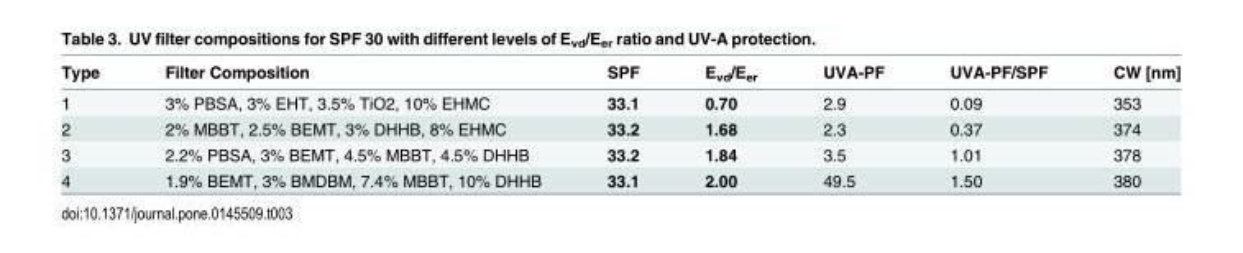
<table><thead><tr><td>Type</td><td>Filter Composition</td><td>SPF</td><td>E<sub>vd</sub>/E<sub>er</sub></td><td>UVA-PF</td><td>UVA-PF/SPF</td><td>CW [nm]</td></tr></thead><tbody><tr><td>1</td><td>3% PBSA, 3% EHT, 3.5% TiO2, 10% EHMC</td><td>33.1</td><td>0.70</td><td>2.9</td><td>0.09</td><td>353</td></tr><tr><td>2</td><td>2% MBBT, 2.5% BEMT, 3% DHHB, 8% EHMC</td><td>33.2</td><td>1.68</td><td>2.3</td><td>0.37</td><td>374</td></tr><tr><td>3</td><td>2.2% PBSA, 3% BEMT, 4.5% MBBT, 4.5% DHHB</td><td>33.2</td><td>1.84</td><td>3.5</td><td>1.01</td><td>378</td></tr><tr><td>4</td><td>1.9% BEMT, 3% BMDBM, 7.4% MBBT, 10% DHHB</td><td>33.1</td><td>2.00</td><td>49.5</td><td>1.50</td><td>380</td></tr></tbody></table>